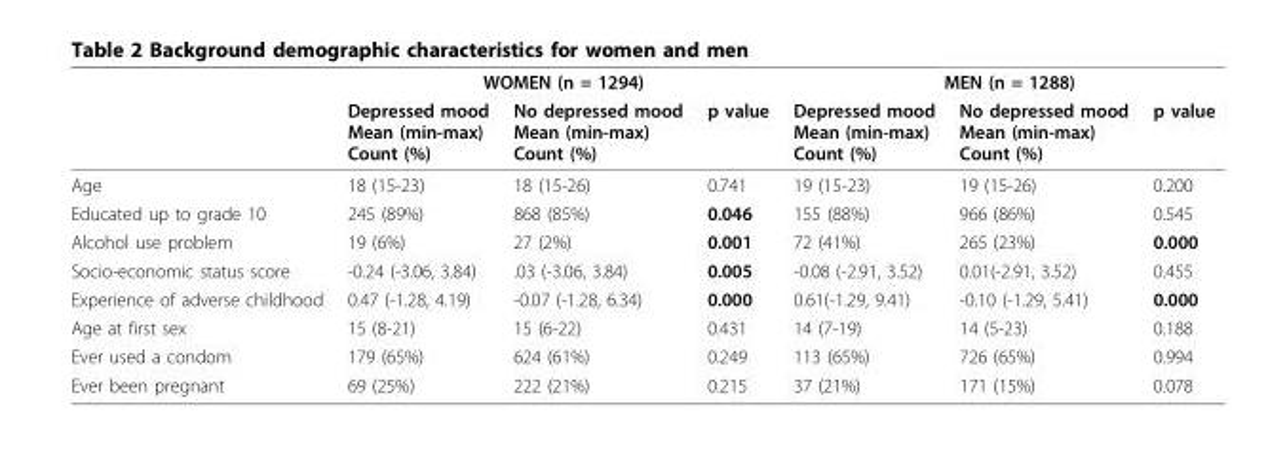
<table><thead><tr><td rowspan="2"></td><td colspan="3">WOMEN (n = 1294)</td><td colspan="3">MEN (n = 1288)</td></tr><tr><td>Depressed mood Mean (min-max) Count (%)</td><td>No depressed mood Mean (min-max) Count (%)</td><td>p value</td><td>Depressed mood Mean (min-max) Count (%)</td><td>No depressed mood Mean (min-max) Count (%)</td><td>p value</td></tr></thead><tbody><tr><td>Age</td><td>18 (15-23)</td><td>18 (15-26)</td><td>0.741</td><td>19 (15-23)</td><td>19 (15-26)</td><td>0.200</td></tr><tr><td>Educated up to grade 10</td><td>245 (89%)</td><td>868 (85%)</td><td>0.046</td><td>155 (88%)</td><td>966 (86%)</td><td>0.545</td></tr><tr><td>Alcohol use problem</td><td>19 (6%)</td><td>27 (2%)</td><td>0.001</td><td>72 (41%)</td><td>265 (23%)</td><td>0.000</td></tr><tr><td>Socio-economic status score</td><td>-0.24 (-3.06, 3.84)</td><td>.03 (-3.06, 3.84)</td><td>0.005</td><td>-0.08 (-2.91, 3.52)</td><td>0.01(-2.91, 3.52)</td><td>0.455</td></tr><tr><td>Experience of adverse childhood</td><td>0.47 (-1.28, 4.19)</td><td>-0.07 (-1.28, 6.34)</td><td>0.000</td><td>0.61(-1.29, 9.41)</td><td>-0.10 (-1.29, 5.41)</td><td>0.000</td></tr><tr><td>Age at first sex</td><td>15 (8-21)</td><td>15 (6-22)</td><td>0.431</td><td>14 (7-19)</td><td>14 (5-23)</td><td>0.188</td></tr><tr><td>Ever used a condom</td><td>179 (65%)</td><td>624 (61%)</td><td>0.249</td><td>113 (65%)</td><td>726 (65%)</td><td>0.994</td></tr><tr><td>Ever been pregnant</td><td>69 (25%)</td><td>222 (21%)</td><td>0.215</td><td>37 (21%)</td><td>171 (15%)</td><td>0.078</td></tr></tbody></table>